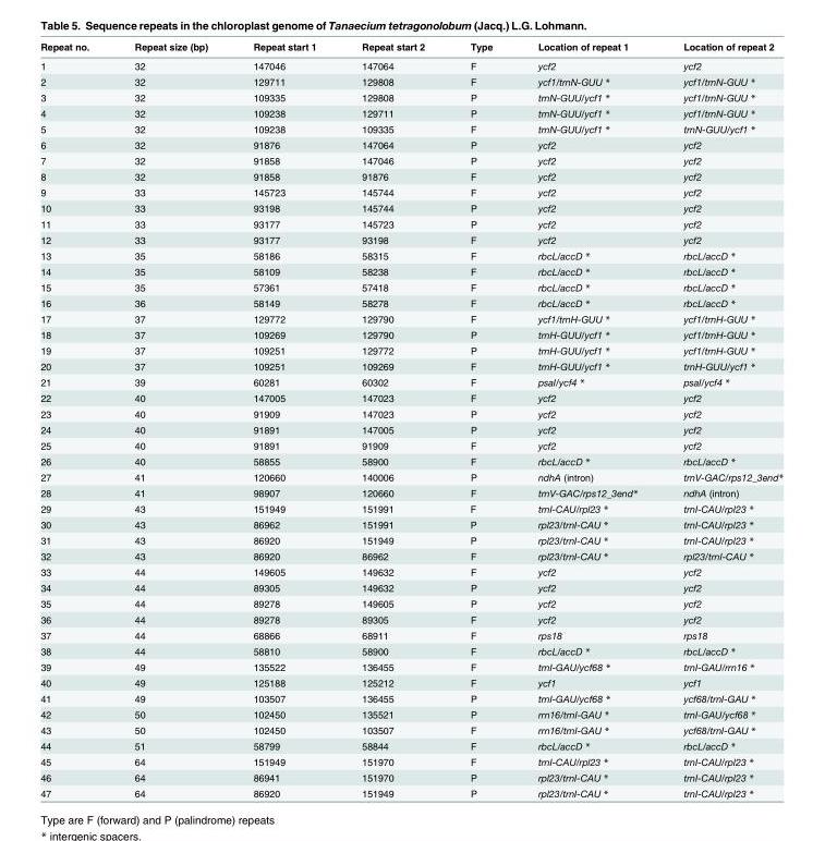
<table><thead><tr><td>Repeat no.</td><td>Repeat size (bp)</td><td>Repeat start 1</td><td>Repeat start 2</td><td>Type</td><td>Location of repeat 1</td><td>Location of repeat 2</td></tr></thead><tbody><tr><td>1</td><td>32</td><td>147046</td><td>147064</td><td>F</td><td>ycf2</td><td>ycf2</td></tr><tr><td>2</td><td>32</td><td>129711</td><td>129808</td><td>F</td><td>ycf1/trnN-GUU *</td><td>ycf1/trnN-GUU *</td></tr><tr><td>3</td><td>32</td><td>109335</td><td>129808</td><td>P</td><td>trnN-GUU/ycf1 *</td><td>ycf1/trnN-GUU *</td></tr><tr><td>4</td><td>32</td><td>109238</td><td>129711</td><td>P</td><td>trnN-GUU/ycf1 *</td><td>ycf1/trnN-GUU *</td></tr><tr><td>5</td><td>32</td><td>109238</td><td>109335</td><td>F</td><td>trnN-GUU/ycf1 *</td><td>trnN-GUU/ycf1 *</td></tr><tr><td>6</td><td>32</td><td>91876</td><td>147064</td><td>P</td><td>ycf2</td><td>ycf2</td></tr><tr><td>7</td><td>32</td><td>91858</td><td>147046</td><td>P</td><td>ycf2</td><td>ycf2</td></tr><tr><td>8</td><td>32</td><td>91858</td><td>91876</td><td>F</td><td>ycf2</td><td>ycf2</td></tr><tr><td>9</td><td>33</td><td>145723</td><td>145744</td><td>F</td><td>ycf2</td><td>ycf2</td></tr><tr><td>10</td><td>33</td><td>93198</td><td>145744</td><td>P</td><td>ycf2</td><td>ycf2</td></tr><tr><td>11</td><td>33</td><td>93177</td><td>145723</td><td>P</td><td>ycf2</td><td>ycf2</td></tr><tr><td>12</td><td>33</td><td>93177</td><td>93198</td><td>F</td><td>ycf2</td><td>ycf2</td></tr><tr><td>13</td><td>35</td><td>58186</td><td>58315</td><td>F</td><td>rbcL/accD *</td><td>rbcL/accD *</td></tr><tr><td>14</td><td>35</td><td>58109</td><td>58238</td><td>F</td><td>rbcL/accD *</td><td>rbcL/accD *</td></tr><tr><td>15</td><td>35</td><td>57361</td><td>57418</td><td>F</td><td>rbcL/accD *</td><td>rbcL/accD *</td></tr><tr><td>16</td><td>36</td><td>58149</td><td>58278</td><td>F</td><td>rbcL/accD *</td><td>rbcL/accD *</td></tr><tr><td>17</td><td>37</td><td>129772</td><td>129790</td><td>F</td><td>ycf1/trnH-GUU *</td><td>ycf1/trnH-GUU *</td></tr><tr><td>18</td><td>37</td><td>109269</td><td>129790</td><td>P</td><td>trnH-GUU/ycf1 *</td><td>ycf1/trnH-GUU *</td></tr><tr><td>19</td><td>37</td><td>109251</td><td>129772</td><td>P</td><td>trnH-GUU/ycf1 *</td><td>ycf1/trnH-GUU *</td></tr><tr><td>20</td><td>37</td><td>109251</td><td>109269</td><td>F</td><td>trnH-GUU/ycf1 *</td><td>trnH-GUU/ycf1 *</td></tr><tr><td>21</td><td>39</td><td>60281</td><td>60302</td><td>F</td><td>psaI/ycf4 *</td><td>psaI/ycf4 *</td></tr><tr><td>22</td><td>40</td><td>147005</td><td>147023</td><td>F</td><td>ycf2</td><td>ycf2</td></tr><tr><td>23</td><td>40</td><td>91909</td><td>147023</td><td>P</td><td>ycf2</td><td>ycf2</td></tr><tr><td>24</td><td>40</td><td>91891</td><td>147005</td><td>P</td><td>ycf2</td><td>ycf2</td></tr><tr><td>25</td><td>40</td><td>91891</td><td>91909</td><td>F</td><td>ycf2</td><td>ycf2</td></tr><tr><td>26</td><td>40</td><td>58855</td><td>58900</td><td>F</td><td>rbcL/accD *</td><td>rbcL/accD *</td></tr><tr><td>27</td><td>41</td><td>120660</td><td>140006</td><td>P</td><td>ndhA (intron)</td><td>trnV-GAC/rps12_3end*</td></tr><tr><td>28</td><td>41</td><td>98907</td><td>120660</td><td>F</td><td>trnV-GAC/rps12_3end*</td><td>ndhA (intron)</td></tr><tr><td>29</td><td>43</td><td>151949</td><td>151991</td><td>F</td><td>trnI-CAU/rpl23 *</td><td>trnI-CAU/rpl23 *</td></tr><tr><td>30</td><td>43</td><td>86962</td><td>151991</td><td>P</td><td>rpl23/trnI-CAU *</td><td>trnI-CAU/rpl23 *</td></tr><tr><td>31</td><td>43</td><td>86920</td><td>151949</td><td>P</td><td>rpl23/trnI-CAU *</td><td>trnI-CAU/rpl23 *</td></tr><tr><td>32</td><td>43</td><td>86920</td><td>86962</td><td>F</td><td>rpl23/trnI-CAU *</td><td>rpl23/trnI-CAU *</td></tr><tr><td>33</td><td>44</td><td>149605</td><td>149632</td><td>F</td><td>ycf2</td><td>ycf2</td></tr><tr><td>34</td><td>44</td><td>89305</td><td>149632</td><td>P</td><td>ycf2</td><td>ycf2</td></tr><tr><td>35</td><td>44</td><td>89278</td><td>149605</td><td>P</td><td>ycf2</td><td>ycf2</td></tr><tr><td>36</td><td>44</td><td>89278</td><td>89305</td><td>F</td><td>ycf2</td><td>ycf2</td></tr><tr><td>37</td><td>44</td><td>68866</td><td>68911</td><td>F</td><td>rps18</td><td>rps18</td></tr><tr><td>38</td><td>44</td><td>58810</td><td>58900</td><td>F</td><td>rbcL/accD *</td><td>rbcL/accD *</td></tr><tr><td>39</td><td>49</td><td>135522</td><td>136455</td><td>F</td><td>trnI-GAU/ycf68 *</td><td>trnI-GAU/rrn16 *</td></tr><tr><td>40</td><td>49</td><td>125188</td><td>125212</td><td>F</td><td>ycf1</td><td>ycf1</td></tr><tr><td>41</td><td>49</td><td>103507</td><td>136455</td><td>P</td><td>trnI-GAU/ycf68 *</td><td>ycf68/trnI-GAU *</td></tr><tr><td>42</td><td>50</td><td>102450</td><td>135521</td><td>P</td><td>rrn16/trnI-GAU *</td><td>trnI-GAU/ycf68 *</td></tr><tr><td>43</td><td>50</td><td>102450</td><td>103507</td><td>F</td><td>rrn16/trnI-GAU *</td><td>ycf68/trnI-GAU *</td></tr><tr><td>44</td><td>51</td><td>58799</td><td>58844</td><td>F</td><td>rbcL/accD *</td><td>rbcL/accD *</td></tr><tr><td>45</td><td>64</td><td>151949</td><td>151970</td><td>F</td><td>trnI-CAU/rpl23 *</td><td>trnI-CAU/rpl23 *</td></tr><tr><td>46</td><td>64</td><td>86941</td><td>151970</td><td>P</td><td>rpl23/trnI-CAU *</td><td>trnI-CAU/rpl23 *</td></tr><tr><td>47</td><td>64</td><td>86920</td><td>151949</td><td>P</td><td>rpl23/trnI-CAU *</td><td>trnI-CAU/rpl23 *</td></tr></tbody></table>